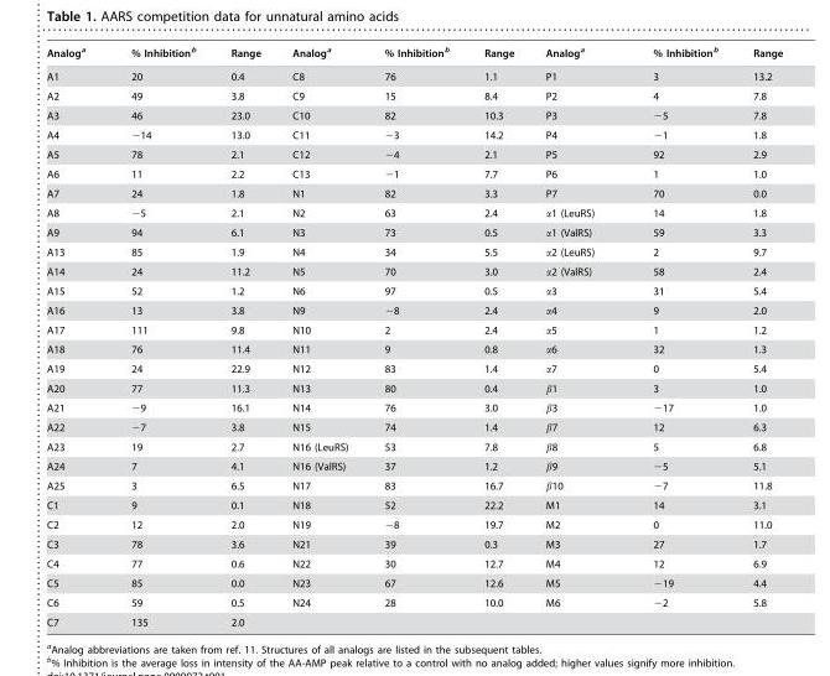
<table><thead><tr><td>Analog<sup>a</sup></td><td>% Inhibition<sup>b</sup></td><td>Range</td><td>Analog<sup>a</sup></td><td>% Inhibition<sup>b</sup></td><td>Range</td><td>Analog<sup>a</sup></td><td>% Inhibition<sup>b</sup></td><td>Range</td></tr></thead><tbody><tr><td>A1</td><td>20</td><td>0.4</td><td>C8</td><td>76</td><td>1.1</td><td>P1</td><td>3</td><td>13.2</td></tr><tr><td>A2</td><td>49</td><td>3.8</td><td>C9</td><td>15</td><td>8.4</td><td>P2</td><td>4</td><td>7.8</td></tr><tr><td>A3</td><td>46</td><td>23.0</td><td>C10</td><td>82</td><td>10.3</td><td>P3</td><td>−5</td><td>7.8</td></tr><tr><td>A4</td><td>−14</td><td>13.0</td><td>C11</td><td>−3</td><td>14.2</td><td>P4</td><td>−1</td><td>1.8</td></tr><tr><td>A5</td><td>78</td><td>2.1</td><td>C12</td><td>−4</td><td>2.1</td><td>P5</td><td>92</td><td>2.9</td></tr><tr><td>A6</td><td>11</td><td>2.2</td><td>C13</td><td>−1</td><td>7.7</td><td>P6</td><td>1</td><td>1.0</td></tr><tr><td>A7</td><td>24</td><td>1.8</td><td>N1</td><td>82</td><td>3.3</td><td>P7</td><td>70</td><td>0.0</td></tr><tr><td>A8</td><td>−5</td><td>2.1</td><td>N2</td><td>63</td><td>2.4</td><td>α1 (LeuRS)</td><td>14</td><td>1.8</td></tr><tr><td>A9</td><td>94</td><td>6.1</td><td>N3</td><td>73</td><td>0.5</td><td>α1 (ValRS)</td><td>59</td><td>3.3</td></tr><tr><td>A13</td><td>85</td><td>1.9</td><td>N4</td><td>34</td><td>5.5</td><td>α2 (LeuRS)</td><td>2</td><td>9.7</td></tr><tr><td>A14</td><td>24</td><td>11.2</td><td>N5</td><td>70</td><td>3.0</td><td>α2 (ValRS)</td><td>58</td><td>2.4</td></tr><tr><td>A15</td><td>52</td><td>1.2</td><td>N6</td><td>97</td><td>0.5</td><td>α3</td><td>31</td><td>5.4</td></tr><tr><td>A16</td><td>13</td><td>3.8</td><td>N9</td><td>−8</td><td>2.4</td><td>α4</td><td>9</td><td>2.0</td></tr><tr><td>A17</td><td>111</td><td>9.8</td><td>N10</td><td>2</td><td>2.4</td><td>α5</td><td>1</td><td>1.2</td></tr><tr><td>A18</td><td>76</td><td>11.4</td><td>N11</td><td>9</td><td>0.8</td><td>α6</td><td>32</td><td>1.3</td></tr><tr><td>A19</td><td>24</td><td>22.9</td><td>N12</td><td>83</td><td>1.4</td><td>α7</td><td>0</td><td>5.4</td></tr><tr><td>A20</td><td>77</td><td>11.3</td><td>N13</td><td>80</td><td>0.4</td><td>β1</td><td>3</td><td>1.0</td></tr><tr><td>A21</td><td>−9</td><td>16.1</td><td>N14</td><td>76</td><td>3.0</td><td>β3</td><td>−17</td><td>1.0</td></tr><tr><td>A22</td><td>−7</td><td>3.8</td><td>N15</td><td>74</td><td>1.4</td><td>β7</td><td>12</td><td>6.3</td></tr><tr><td>A23</td><td>19</td><td>2.7</td><td>N16 (LeuRS)</td><td>53</td><td>7.8</td><td>β8</td><td>5</td><td>6.8</td></tr><tr><td>A24</td><td>7</td><td>4.1</td><td>N16 (ValRS)</td><td>37</td><td>1.2</td><td>β9</td><td>−5</td><td>5.1</td></tr><tr><td>A25</td><td>3</td><td>6.5</td><td>N17</td><td>83</td><td>16.7</td><td>β10</td><td>−7</td><td>11.8</td></tr><tr><td>C1</td><td>9</td><td>0.1</td><td>N18</td><td>52</td><td>22.2</td><td>M1</td><td>14</td><td>3.1</td></tr><tr><td>C2</td><td>12</td><td>2.0</td><td>N19</td><td>−8</td><td>19.7</td><td>M2</td><td>0</td><td>11.0</td></tr><tr><td>C3</td><td>78</td><td>3.6</td><td>N21</td><td>39</td><td>0.3</td><td>M3</td><td>27</td><td>1.7</td></tr><tr><td>C4</td><td>77</td><td>0.6</td><td>N22</td><td>30</td><td>12.7</td><td>M4</td><td>12</td><td>6.9</td></tr><tr><td>C5</td><td>85</td><td>0.0</td><td>N23</td><td>67</td><td>12.6</td><td>M5</td><td>−19</td><td>4.4</td></tr><tr><td>C6</td><td>59</td><td>0.5</td><td>N24</td><td>28</td><td>10.0</td><td>M6</td><td>−2</td><td>5.8</td></tr><tr><td>C7</td><td>135</td><td>2.0</td><td></td><td></td><td></td><td></td><td></td><td></td></tr></tbody></table>